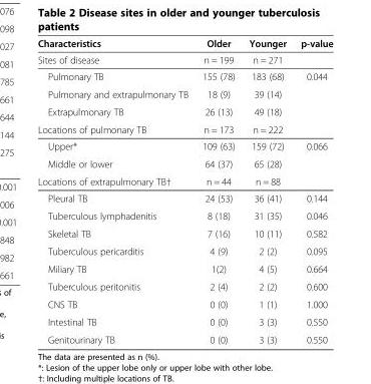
<table><thead><tr><td>Characteristics</td><td>Older</td><td>Younger</td><td>p-value</td></tr></thead><tbody><tr><td>Sites of disease</td><td>n = 199</td><td>n = 271</td><td></td></tr><tr><td>Pulmonary TB</td><td>155 (78)</td><td>183 (68)</td><td>0.044</td></tr><tr><td>Pulmonary and extrapulmonary TB</td><td>18 (9)</td><td>39 (14)</td><td></td></tr><tr><td>Extrapulmonary TB</td><td>26 (13)</td><td>49 (18)</td><td></td></tr><tr><td>Locations of pulmonary TB</td><td>n = 173</td><td>n = 222</td><td></td></tr><tr><td>Upper*</td><td>109 (63)</td><td>159 (72)</td><td>0.066</td></tr><tr><td>Middle or lower</td><td>64 (37)</td><td>65 (28)</td><td></td></tr><tr><td>Locations of extrapulmonary TB†</td><td>n = 44</td><td>n = 88</td><td></td></tr><tr><td>Pleural TB</td><td>24 (53)</td><td>36 (41)</td><td>0.144</td></tr><tr><td>Tuberculous lymphadenitis</td><td>8 (18)</td><td>31 (35)</td><td>0.046</td></tr><tr><td>Skeletal TB</td><td>7 (16)</td><td>10 (11)</td><td>0.582</td></tr><tr><td>Tuberculous pericarditis</td><td>4 (9)</td><td>2 (2)</td><td>0.095</td></tr><tr><td>Miliary TB</td><td>1(2)</td><td>4 (5)</td><td>0.664</td></tr><tr><td>Tuberculous peritonitis</td><td>2 (4)</td><td>2 (2)</td><td>0.600</td></tr><tr><td>CNS TB</td><td>0 (0)</td><td>1 (1)</td><td>1.000</td></tr><tr><td>Intestinal TB</td><td>0 (0)</td><td>3 (3)</td><td>0.550</td></tr><tr><td>Genitourinary TB</td><td>0 (0)</td><td>3 (3)</td><td>0.550</td></tr></tbody></table>